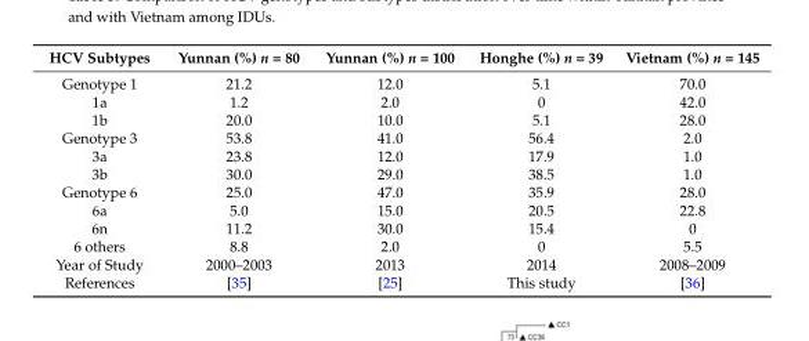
<table><thead><tr><td>HCV Subtypes</td><td>Yunnan (%) n = 80</td><td>Yunnan (%) n = 100</td><td>Honghe (%) n = 39</td><td>Vietnam (%) n = 145</td></tr></thead><tbody><tr><td>Genotype 1</td><td>21.2</td><td>12.0</td><td>5.1</td><td>70.0</td></tr><tr><td>1a</td><td>1.2</td><td>2.0</td><td>0</td><td>42.0</td></tr><tr><td>1b</td><td>20.0</td><td>10.0</td><td>5.1</td><td>28.0</td></tr><tr><td>Genotype 3</td><td>53.8</td><td>41.0</td><td>56.4</td><td>2.0</td></tr><tr><td>3a</td><td>23.8</td><td>12.0</td><td>17.9</td><td>1.0</td></tr><tr><td>3b</td><td>30.0</td><td>29.0</td><td>38.5</td><td>1.0</td></tr><tr><td>Genotype 6</td><td>25.0</td><td>47.0</td><td>35.9</td><td>28.0</td></tr><tr><td>6a</td><td>5.0</td><td>15.0</td><td>20.5</td><td>22.8</td></tr><tr><td>6n</td><td>11.2</td><td>30.0</td><td>15.4</td><td>0</td></tr><tr><td>6 others</td><td>8.8</td><td>2.0</td><td>0</td><td>5.5</td></tr><tr><td>Year of Study</td><td>2000–2003</td><td>2013</td><td>2014</td><td>2008–2009</td></tr><tr><td>References</td><td>[35]</td><td>[25]</td><td>This study</td><td>[36]</td></tr></tbody></table>